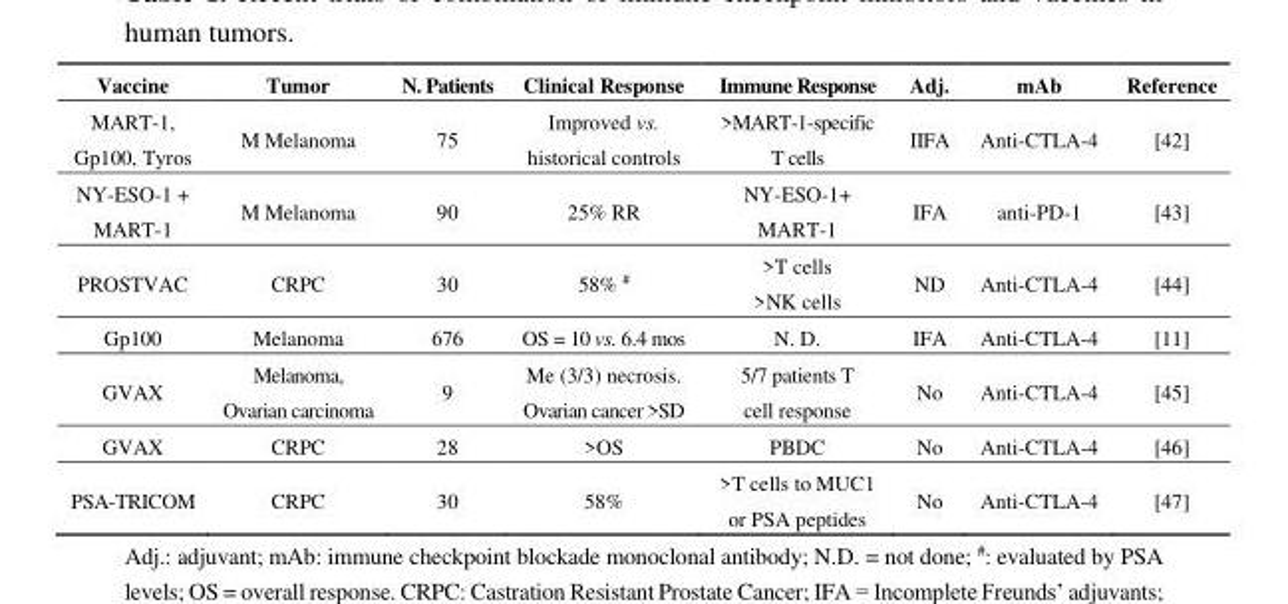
<table><thead><tr><td>Vaccine</td><td>Tumor</td><td>N. Patients</td><td>Clinical Response</td><td>Immune Response</td><td>Adj.</td><td>mAb</td><td>Reference</td></tr></thead><tbody><tr><td>MART-1, Gp100, Tyros</td><td>M Melanoma</td><td>75</td><td>Improved vs. historical controls</td><td>&gt;MART-1-specific T cells</td><td>IIFA</td><td>Anti-CTLA-4</td><td>[42]</td></tr><tr><td>NY-ESO-1 + MART-1</td><td>M Melanoma</td><td>90</td><td>25% RR</td><td>NY-ESO-1+ MART-1</td><td>IFA</td><td>anti-PD-1</td><td>[43]</td></tr><tr><td>PROSTVAC</td><td>CRPC</td><td>30</td><td>58% <sup>#</sup></td><td>&gt;T cells &gt;NK cells</td><td>ND</td><td>Anti-CTLA-4</td><td>[44]</td></tr><tr><td>Gp100</td><td>Melanoma</td><td>676</td><td>OS = 10 vs. 6.4 mos</td><td>N. D.</td><td>IFA</td><td>Anti-CTLA-4</td><td>[11]</td></tr><tr><td>GVAX</td><td>Melanoma, Ovarian carcinoma</td><td>9</td><td>Me (3/3) necrosis. Ovarian cancer &gt;SD</td><td>5/7 patients T cell response</td><td>No</td><td>Anti-CTLA-4</td><td>[45]</td></tr><tr><td>GVAX</td><td>CRPC</td><td>28</td><td>&gt;OS</td><td>PBDC</td><td>No</td><td>Anti-CTLA-4</td><td>[46]</td></tr><tr><td>PSA-TRICOM</td><td>CRPC</td><td>30</td><td>58%</td><td>&gt;T cells to MUC1 or PSA peptides</td><td>No</td><td>Anti-CTLA-4</td><td>[47]</td></tr></tbody></table>